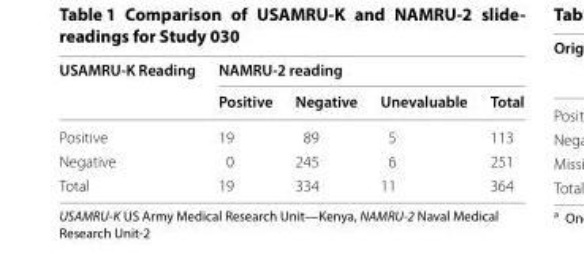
<table><thead><tr><td rowspan="2">USAMRU-K Reading</td><td colspan="4">NAMRU-2 reading</td></tr><tr><td>Positive</td><td>Negative</td><td>Unevaluable</td><td>Total</td></tr></thead><tbody><tr><td>Positive</td><td>19</td><td>89</td><td>5</td><td>113</td></tr><tr><td>Negative</td><td>0</td><td>245</td><td>6</td><td>251</td></tr><tr><td>Total</td><td>19</td><td>334</td><td>11</td><td>364</td></tr></tbody></table>